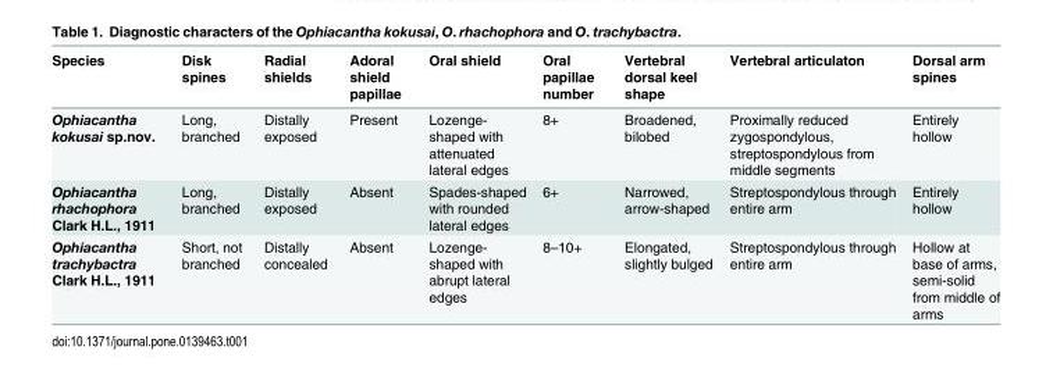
<table><thead><tr><td>Species</td><td>Disk spines</td><td>Radial shields</td><td>Adoral shield papillae</td><td>Oral shield</td><td>Oral papillae number</td><td>Vertebral dorsal keel shape</td><td>Vertebral articulaton</td><td>Dorsal arm spines</td></tr></thead><tbody><tr><td>Ophiacantha kokusai sp.nov.</td><td>Long, branched</td><td>Distally exposed</td><td>Present</td><td>Lozenge- shaped with attenuated lateral edges</td><td>8+</td><td>Broadened, bilobed</td><td>Proximally reduced zygospondylous, streptospondylous from middle segments</td><td>Entirely hollow</td></tr><tr><td>Ophiacantha rhachophora Clark H.L., 1911</td><td>Long, branched</td><td>Distally exposed</td><td>Absent</td><td>Spades-shaped with rounded lateral edges</td><td>6+</td><td>Narrowed, arrow-shaped</td><td>Streptospondylous through entire arm</td><td>Entirely hollow</td></tr><tr><td>Ophiacantha trachybactra Clark H.L., 1911</td><td>Short, not branched</td><td>Distally concealed</td><td>Absent</td><td>Lozenge- shaped with abrupt lateral edges</td><td>8–10+</td><td>Elongated, slightly bulged</td><td>Streptospondylous through entire arm</td><td>Hollow at base of arms, semi-solid from middle of arms</td></tr></tbody></table>